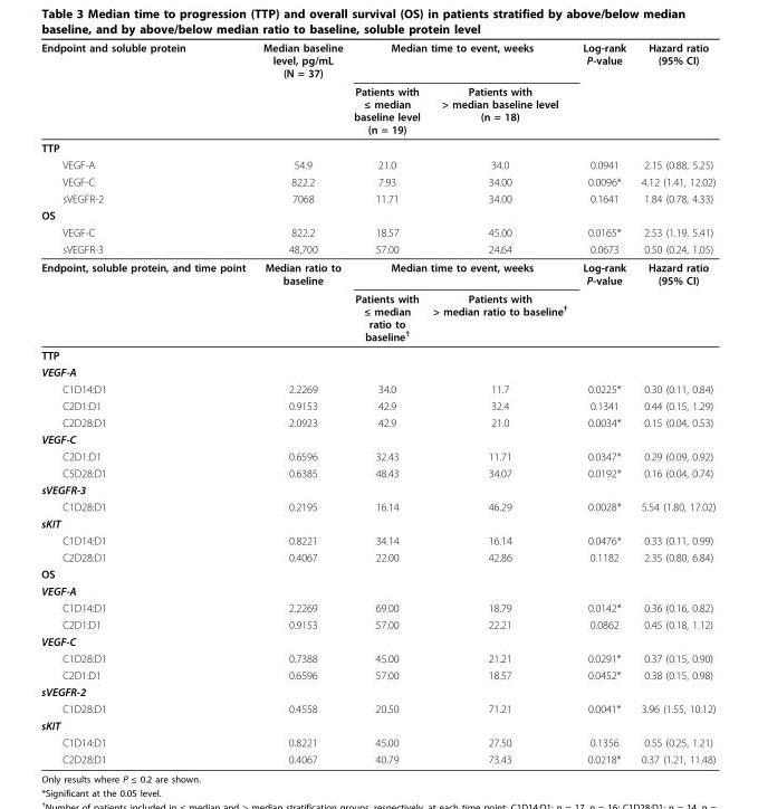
<table><thead><tr><td rowspan="2">Endpoint and soluble protein</td><td rowspan="2">Median baseline level, pg/mL (N = 37)</td><td colspan="2">Median time to event, weeks</td><td rowspan="2">Log-rank P-value</td><td rowspan="2">Hazard ratio (95% CI)</td></tr><tr><td>Patients with ≤ median baseline level (n = 19)</td><td>Patients with &gt; median baseline level (n = 18)</td></tr></thead><tbody><tr><td colspan="6">TTP</td></tr><tr><td>VEGF-A</td><td>54.9</td><td>21.0</td><td>34.0</td><td>0.0941</td><td>2.15 (0.88, 5.25)</td></tr><tr><td>VEGF-C</td><td>822.2</td><td>7.93</td><td>34.00</td><td>0.0096*</td><td>4.12 (1.41, 12.02)</td></tr><tr><td>sVEGFR-2</td><td>7068</td><td>11.71</td><td>34.00</td><td>0.1641</td><td>1.84 (0.78, 4.33)</td></tr><tr><td colspan="6">OS</td></tr><tr><td>VEGF-C</td><td>822.2</td><td>18.57</td><td>45.00</td><td>0.0165*</td><td>2.53 (1.19, 5.41)</td></tr><tr><td>sVEGFR-3</td><td>48,700</td><td>57.00</td><td>24.64</td><td>0.0673</td><td>0.50 (0.24, 1.05)</td></tr><tr><td rowspan="2">Endpoint, soluble protein, and time point</td><td>Median ratio to baseline</td><td colspan="2">Median time to event, weeks</td><td>Log-rank P-value</td><td>Hazard ratio (95% CI)</td></tr><tr><td></td><td>Patients with ≤ median ratio to baseline<sup>†</sup></td><td>Patients with &gt; median ratio to baseline<sup>†</sup></td><td></td><td></td></tr><tr><td colspan="6">TTP</td></tr><tr><td colspan="6">VEGF-A</td></tr><tr><td>C1D14:D1</td><td>2.2269</td><td>34.0</td><td>11.7</td><td>0.0225*</td><td>0.30 (0.11, 0.84)</td></tr><tr><td>C2D1:D1</td><td>0.9153</td><td>42.9</td><td>32.4</td><td>0.1341</td><td>0.44 (0.15, 1.29)</td></tr><tr><td>C2D28:D1</td><td>2.0923</td><td>42.9</td><td>21.0</td><td>0.0034*</td><td>0.15 (0.04, 0.53)</td></tr><tr><td colspan="6">VEGF-C</td></tr><tr><td>C2D1:D1</td><td>0.6596</td><td>32.43</td><td>11.71</td><td>0.0347*</td><td>0.29 (0.09, 0.92)</td></tr><tr><td>C5D28:D1</td><td>0.6385</td><td>48.43</td><td>34.07</td><td>0.0192*</td><td>0.16 (0.04, 0.74)</td></tr><tr><td colspan="6">sVEGFR-3</td></tr><tr><td>C1D28:D1</td><td>0.2195</td><td>16.14</td><td>46.29</td><td>0.0028*</td><td>5.54 (1.80, 17.02)</td></tr><tr><td colspan="6">sKIT</td></tr><tr><td>C1D14:D1</td><td>0.8221</td><td>34.14</td><td>16.14</td><td>0.0476*</td><td>0.33 (0.11, 0.99)</td></tr><tr><td>C2D28:D1</td><td>0.4067</td><td>22.00</td><td>42.86</td><td>0.1182</td><td>2.35 (0.80, 6.84)</td></tr><tr><td colspan="6">OS</td></tr><tr><td colspan="6">VEGF-A</td></tr><tr><td>C1D14:D1</td><td>2.2269</td><td>69.00</td><td>18.79</td><td>0.0142*</td><td>0.36 (0.16, 0.82)</td></tr><tr><td>C2D1:D1</td><td>0.9153</td><td>57.00</td><td>22.21</td><td>0.0862</td><td>0.45 (0.18, 1.12)</td></tr><tr><td colspan="6">VEGF-C</td></tr><tr><td>C1D28:D1</td><td>0.7388</td><td>45.00</td><td>21.21</td><td>0.0291*</td><td>0.37 (0.15, 0.90)</td></tr><tr><td>C2D1:D1</td><td>0.6596</td><td>57.00</td><td>18.57</td><td>0.0452*</td><td>0.38 (0.15, 0.98)</td></tr><tr><td colspan="6">sVEGFR-2</td></tr><tr><td>C1D28:D1</td><td>0.4558</td><td>20.50</td><td>71.21</td><td>0.0041*</td><td>3.96 (1.55, 10.12)</td></tr><tr><td colspan="6">sKIT</td></tr><tr><td>C1D14:D1</td><td>0.8221</td><td>45.00</td><td>27.50</td><td>0.1356</td><td>0.55 (0.25, 1.21)</td></tr><tr><td>C2D28:D1</td><td>0.4067</td><td>40.79</td><td>73.43</td><td>0.0218*</td><td>0.37 (1.21, 11.48)</td></tr></tbody></table>